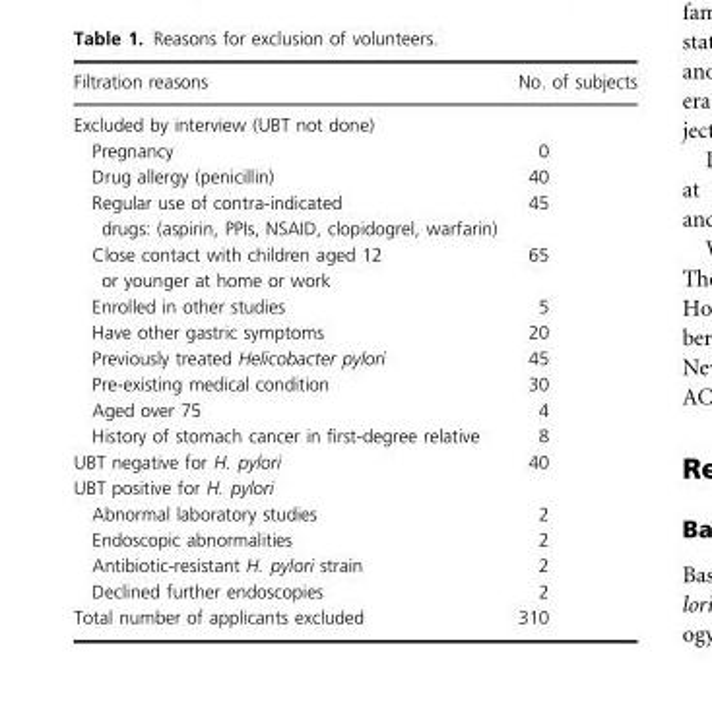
<table><thead><tr><td>Filtration reasons</td><td>No. of subjects</td></tr></thead><tbody><tr><td colspan="2">Excluded by interview (UBT not done)</td></tr><tr><td>Pregnancy</td><td>0</td></tr><tr><td>Drug allergy (penicillin)</td><td>40</td></tr><tr><td>Regular use of contra-indicated drugs: (aspirin, PPIs, NSAID, clopidogrel, warfarin)</td><td>45</td></tr><tr><td>Close contact with children aged 12 or younger at home or work</td><td>65</td></tr><tr><td>Enrolled in other studies</td><td>5</td></tr><tr><td>Have other gastric symptoms</td><td>20</td></tr><tr><td>Previously treated Helicobacter pylori</td><td>45</td></tr><tr><td>Pre-existing medical condition</td><td>30</td></tr><tr><td>Aged over 75</td><td>4</td></tr><tr><td>History of stomach cancer in first-degree relative</td><td>8</td></tr><tr><td>UBT negative for H. pylori</td><td>40</td></tr><tr><td colspan="2">UBT positive for H. pylori</td></tr><tr><td>Abnormal laboratory studies</td><td>2</td></tr><tr><td>Endoscopic abnormalities</td><td>2</td></tr><tr><td>Antibiotic-resistant H. pylori strain</td><td>2</td></tr><tr><td>Declined further endoscopies</td><td>2</td></tr><tr><td>Total number of applicants excluded</td><td>310</td></tr></tbody></table>